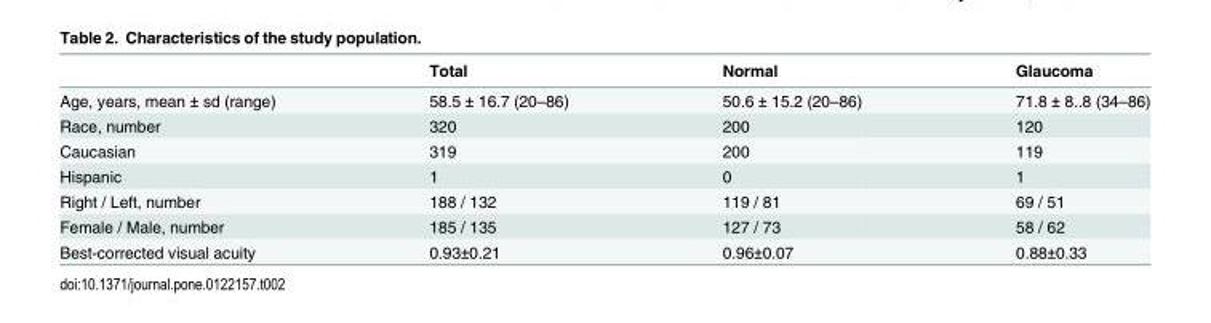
<table><thead><tr><td></td><td>Total</td><td>Normal</td><td>Glaucoma</td></tr></thead><tbody><tr><td>Age, years, mean ± sd (range)</td><td>58.5 ± 16.7 (20–86)</td><td>50.6 ± 15.2 (20–86)</td><td>71.8 ± 8..8 (34–86)</td></tr><tr><td>Race, number</td><td>320</td><td>200</td><td>120</td></tr><tr><td>Caucasian</td><td>319</td><td>200</td><td>119</td></tr><tr><td>Hispanic</td><td>1</td><td>0</td><td>1</td></tr><tr><td>Right / Left, number</td><td>188 / 132</td><td>119 / 81</td><td>69 / 51</td></tr><tr><td>Female / Male, number</td><td>185 / 135</td><td>127 / 73</td><td>58 / 62</td></tr><tr><td>Best-corrected visual acuity</td><td>0.93±0.21</td><td>0.96±0.07</td><td>0.88±0.33</td></tr></tbody></table>